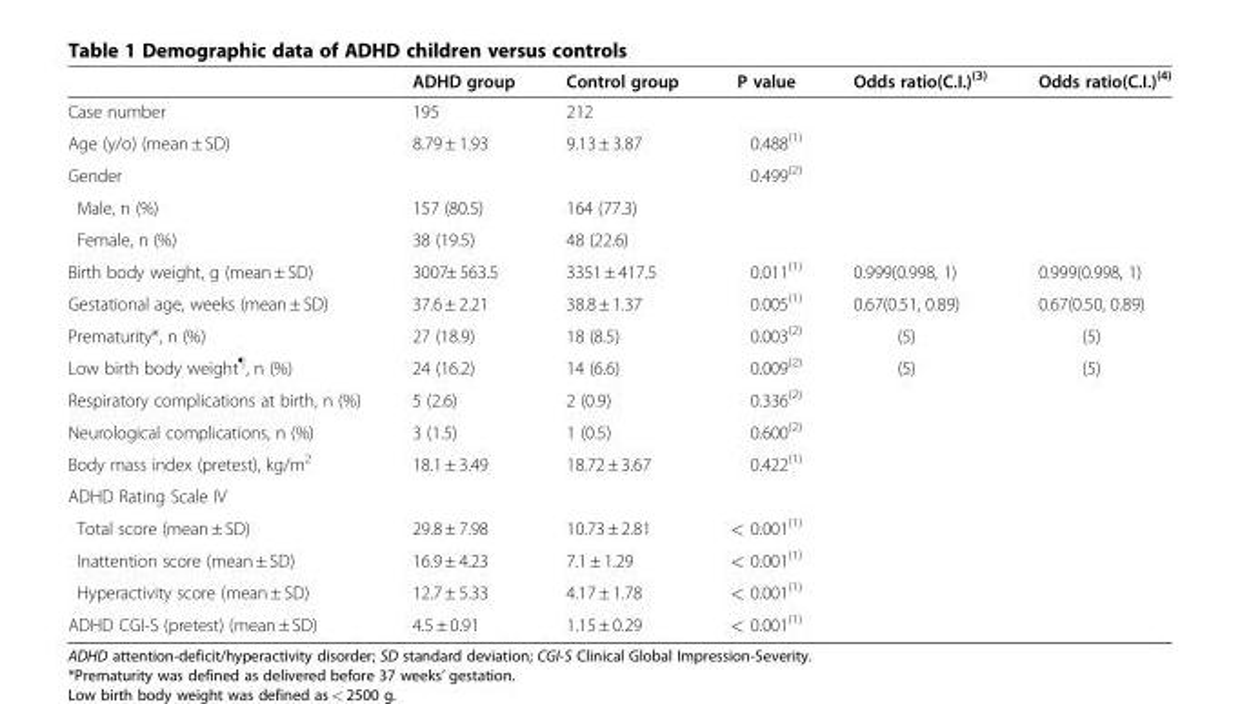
<table><thead><tr><td></td><td>ADHD group</td><td>Control group</td><td>P value</td><td>Odds ratio(C.I.)<sup>(3)</sup></td><td>Odds ratio(C.I.)<sup>(4)</sup></td></tr></thead><tbody><tr><td>Case number</td><td>195</td><td>212</td><td></td><td></td><td></td></tr><tr><td>Age (y/o) (mean ± SD)</td><td>8.79 ± 1.93</td><td>9.13 ± 3.87</td><td>0.488<sup>(1)</sup></td><td></td><td></td></tr><tr><td>Gender</td><td></td><td></td><td>0.499<sup>(2)</sup></td><td></td><td></td></tr><tr><td>Male, n (%)</td><td>157 (80.5)</td><td>164 (77.3)</td><td></td><td></td><td></td></tr><tr><td>Female, n (%)</td><td>38 (19.5)</td><td>48 (22.6)</td><td></td><td></td><td></td></tr><tr><td>Birth body weight, g (mean ± SD)</td><td>3007± 563.5</td><td>3351 ± 417.5</td><td>0.011<sup>(1)</sup></td><td>0.999(0.998, 1)</td><td>0.999(0.998, 1)</td></tr><tr><td>Gestational age, weeks (mean ± SD)</td><td>37.6 ± 2.21</td><td>38.8 ± 1.37</td><td>0.005<sup>(1)</sup></td><td>0.67(0.51, 0.89)</td><td>0.67(0.50, 0.89)</td></tr><tr><td>Prematurity*, n (%)</td><td>27 (18.9)</td><td>18 (8.5)</td><td>0.003<sup>(2)</sup></td><td>(5)</td><td>(5)</td></tr><tr><td>Low birth body weight<sup>¶</sup>, n (%)</td><td>24 (16.2)</td><td>14 (6.6)</td><td>0.009<sup>(2)</sup></td><td>(5)</td><td>(5)</td></tr><tr><td>Respiratory complications at birth, n (%)</td><td>5 (2.6)</td><td>2 (0.9)</td><td>0.336<sup>(2)</sup></td><td></td><td></td></tr><tr><td>Neurological complications, n (%)</td><td>3 (1.5)</td><td>1 (0.5)</td><td>0.600<sup>(2)</sup></td><td></td><td></td></tr><tr><td>Body mass index (pretest), kg/m<sup>2</sup></td><td>18.1 ± 3.49</td><td>18.72 ± 3.67</td><td>0.422<sup>(1)</sup></td><td></td><td></td></tr><tr><td colspan="6">ADHD Rating Scale IV</td></tr><tr><td>Total score (mean ± SD)</td><td>29.8 ± 7.98</td><td>10.73 ± 2.81</td><td>&lt; 0.001<sup>(1)</sup></td><td></td><td></td></tr><tr><td>Inattention score (mean ± SD)</td><td>16.9 ± 4.23</td><td>7.1 ± 1.29</td><td>&lt; 0.001<sup>(1)</sup></td><td></td><td></td></tr><tr><td>Hyperactivity score (mean ± SD)</td><td>12.7 ± 5.33</td><td>4.17 ± 1.78</td><td>&lt; 0.001<sup>(1)</sup></td><td></td><td></td></tr><tr><td>ADHD CGI-S (pretest) (mean ± SD)</td><td>4.5 ± 0.91</td><td>1.15 ± 0.29</td><td>&lt; 0.001<sup>(1)</sup></td><td></td><td></td></tr></tbody></table>